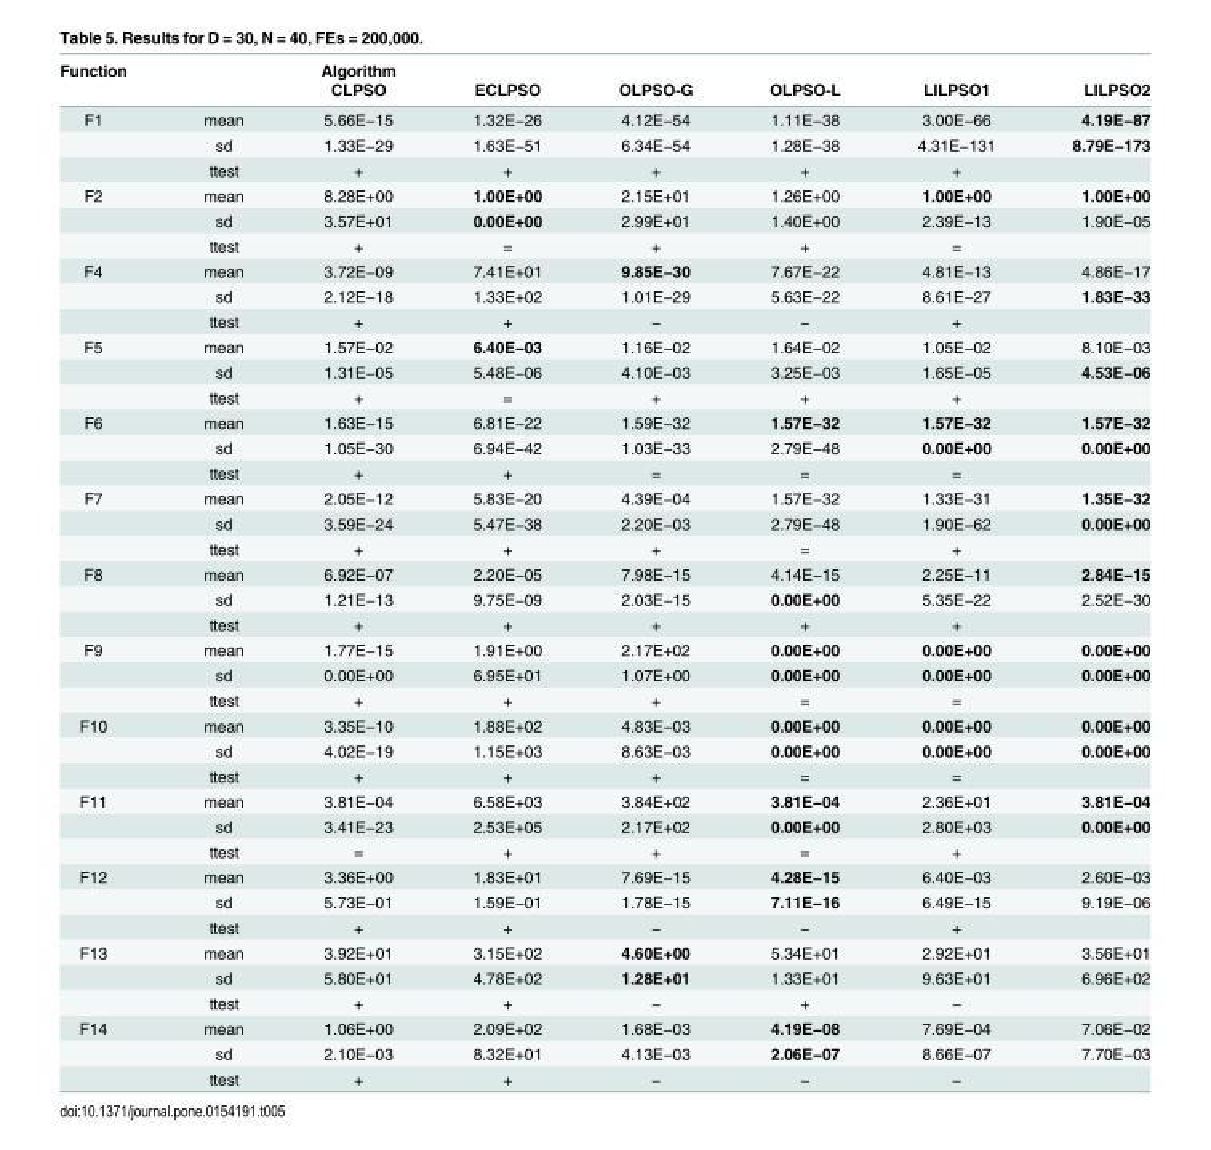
<table><thead><tr><td rowspan="2">Function</td><td rowspan="2"></td><td rowspan="2">Algorithm CLPSO</td><td rowspan="2">ECLPSO</td><td rowspan="2">OLPSO-G</td><td rowspan="2">OLPSO-L</td><td rowspan="2">LILPSO1</td><td rowspan="2">LILPSO2</td></tr><tr></tr></thead><tbody><tr><td rowspan="3">F1</td><td>mean</td><td>5.66E−15</td><td>1.32E−26</td><td>4.12E−54</td><td>1.11E−38</td><td>3.00E−66</td><td>4.19E−87</td></tr><tr><td>sd</td><td>1.33E−29</td><td>1.63E−51</td><td>6.34E−54</td><td>1.28E−38</td><td>4.31E−131</td><td>8.79E−173</td></tr><tr><td>ttest</td><td>+</td><td>+</td><td>+</td><td>+</td><td>+</td><td></td></tr><tr><td rowspan="3">F2</td><td>mean</td><td>8.28E+00</td><td>1.00E+00</td><td>2.15E+01</td><td>1.26E+00</td><td>1.00E+00</td><td>1.00E+00</td></tr><tr><td>sd</td><td>3.57E+01</td><td>0.00E+00</td><td>2.99E+01</td><td>1.40E+00</td><td>2.39E−13</td><td>1.90E−05</td></tr><tr><td>ttest</td><td>+</td><td>=</td><td>+</td><td>+</td><td>=</td><td></td></tr><tr><td rowspan="3">F4</td><td>mean</td><td>3.72E−09</td><td>7.41E+01</td><td>9.85E−30</td><td>7.67E−22</td><td>4.81E−13</td><td>4.86E−17</td></tr><tr><td>sd</td><td>2.12E−18</td><td>1.33E+02</td><td>1.01E−29</td><td>5.63E−22</td><td>8.61E−27</td><td>1.83E−33</td></tr><tr><td>ttest</td><td>+</td><td>+</td><td>−</td><td>−</td><td>+</td><td></td></tr><tr><td rowspan="3">F5</td><td>mean</td><td>1.57E−02</td><td>6.40E−03</td><td>1.16E−02</td><td>1.64E−02</td><td>1.05E−02</td><td>8.10E−03</td></tr><tr><td>sd</td><td>1.31E−05</td><td>5.48E−06</td><td>4.10E−03</td><td>3.25E−03</td><td>1.65E−05</td><td>4.53E−06</td></tr><tr><td>ttest</td><td>+</td><td>=</td><td>+</td><td>+</td><td>+</td><td></td></tr><tr><td rowspan="3">F6</td><td>mean</td><td>1.63E−15</td><td>6.81E−22</td><td>1.59E−32</td><td>1.57E−32</td><td>1.57E−32</td><td>1.57E−32</td></tr><tr><td>sd</td><td>1.05E−30</td><td>6.94E−42</td><td>1.03E−33</td><td>2.79E−48</td><td>0.00E+00</td><td>0.00E+00</td></tr><tr><td>ttest</td><td>+</td><td>+</td><td>=</td><td>=</td><td>=</td><td></td></tr><tr><td rowspan="3">F7</td><td>mean</td><td>2.05E−12</td><td>5.83E−20</td><td>4.39E−04</td><td>1.57E−32</td><td>1.33E−31</td><td>1.35E−32</td></tr><tr><td>sd</td><td>3.59E−24</td><td>5.47E−38</td><td>2.20E−03</td><td>2.79E−48</td><td>1.90E−62</td><td>0.00E+00</td></tr><tr><td>ttest</td><td>+</td><td>+</td><td>+</td><td>=</td><td>+</td><td></td></tr><tr><td rowspan="3">F8</td><td>mean</td><td>6.92E−07</td><td>2.20E−05</td><td>7.98E−15</td><td>4.14E−15</td><td>2.25E−11</td><td>2.84E−15</td></tr><tr><td>sd</td><td>1.21E−13</td><td>9.75E−09</td><td>2.03E−15</td><td>0.00E+00</td><td>5.35E−22</td><td>2.52E−30</td></tr><tr><td>ttest</td><td>+</td><td>+</td><td>+</td><td>+</td><td>+</td><td></td></tr><tr><td rowspan="3">F9</td><td>mean</td><td>1.77E−15</td><td>1.91E+00</td><td>2.17E+02</td><td>0.00E+00</td><td>0.00E+00</td><td>0.00E+00</td></tr><tr><td>sd</td><td>0.00E+00</td><td>6.95E+01</td><td>1.07E+00</td><td>0.00E+00</td><td>0.00E+00</td><td>0.00E+00</td></tr><tr><td>ttest</td><td>+</td><td>+</td><td>+</td><td>=</td><td>=</td><td></td></tr><tr><td rowspan="3">F10</td><td>mean</td><td>3.35E−10</td><td>1.88E+02</td><td>4.83E−03</td><td>0.00E+00</td><td>0.00E+00</td><td>0.00E+00</td></tr><tr><td>sd</td><td>4.02E−19</td><td>1.15E+03</td><td>8.63E−03</td><td>0.00E+00</td><td>0.00E+00</td><td>0.00E+00</td></tr><tr><td>ttest</td><td>+</td><td>+</td><td>+</td><td>=</td><td>=</td><td></td></tr><tr><td rowspan="3">F11</td><td>mean</td><td>3.81E−04</td><td>6.58E+03</td><td>3.84E+02</td><td>3.81E−04</td><td>2.36E+01</td><td>3.81E−04</td></tr><tr><td>sd</td><td>3.41E−23</td><td>2.53E+05</td><td>2.17E+02</td><td>0.00E+00</td><td>2.80E+03</td><td>0.00E+00</td></tr><tr><td>ttest</td><td>=</td><td>+</td><td>+</td><td>=</td><td>+</td><td></td></tr><tr><td rowspan="3">F12</td><td>mean</td><td>3.36E+00</td><td>1.83E+01</td><td>7.69E−15</td><td>4.28E−15</td><td>6.40E−03</td><td>2.60E−03</td></tr><tr><td>sd</td><td>5.73E−01</td><td>1.59E−01</td><td>1.78E−15</td><td>7.11E−16</td><td>6.49E−15</td><td>9.19E−06</td></tr><tr><td>ttest</td><td>+</td><td>+</td><td>−</td><td>−</td><td>+</td><td></td></tr><tr><td rowspan="3">F13</td><td>mean</td><td>3.92E+01</td><td>3.15E+02</td><td>4.60E+00</td><td>5.34E+01</td><td>2.92E+01</td><td>3.56E+01</td></tr><tr><td>sd</td><td>5.80E+01</td><td>4.78E+02</td><td>1.28E+01</td><td>1.33E+01</td><td>9.63E+01</td><td>6.96E+02</td></tr><tr><td>ttest</td><td>+</td><td>+</td><td>−</td><td>+</td><td>−</td><td></td></tr><tr><td rowspan="3">F14</td><td>mean</td><td>1.06E+00</td><td>2.09E+02</td><td>1.68E−03</td><td>4.19E−08</td><td>7.69E−04</td><td>7.06E−02</td></tr><tr><td>sd</td><td>2.10E−03</td><td>8.32E+01</td><td>4.13E−03</td><td>2.06E−07</td><td>8.66E−07</td><td>7.70E−03</td></tr><tr><td>ttest</td><td>+</td><td>+</td><td>−</td><td>−</td><td>−</td><td></td></tr></tbody></table>